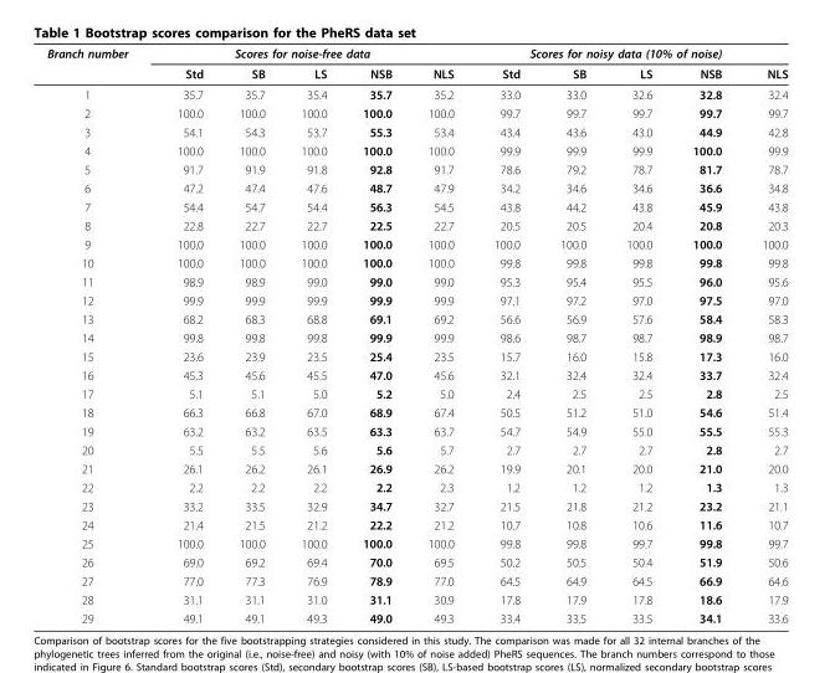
<table><thead><tr><td rowspan="2">Branch number</td><td colspan="5">Scores for noise-free data</td><td colspan="5">Scores for noisy data (10% of noise)</td></tr><tr><td>Std</td><td>SB</td><td>LS</td><td>NSB</td><td>NLS</td><td>Std</td><td>SB</td><td>LS</td><td>NSB</td><td>NLS</td></tr></thead><tbody><tr><td>1</td><td>35.7</td><td>35.7</td><td>35.4</td><td>35.7</td><td>35.2</td><td>33.0</td><td>33.0</td><td>32.6</td><td>32.8</td><td>32.4</td></tr><tr><td>2</td><td>100.0</td><td>100.0</td><td>100.0</td><td>100.0</td><td>100.0</td><td>99.7</td><td>99.7</td><td>99.7</td><td>99.7</td><td>99.7</td></tr><tr><td>3</td><td>54.1</td><td>54.3</td><td>53.7</td><td>55.3</td><td>53.4</td><td>43.4</td><td>43.6</td><td>43.0</td><td>44.9</td><td>42.8</td></tr><tr><td>4</td><td>100.0</td><td>100.0</td><td>100.0</td><td>100.0</td><td>100.0</td><td>99.9</td><td>99.9</td><td>99.9</td><td>100.0</td><td>99.9</td></tr><tr><td>5</td><td>91.7</td><td>91.9</td><td>91.8</td><td>92.8</td><td>91.7</td><td>78.6</td><td>79.2</td><td>78.7</td><td>81.7</td><td>78.7</td></tr><tr><td>6</td><td>47.2</td><td>47.4</td><td>47.6</td><td>48.7</td><td>47.9</td><td>34.2</td><td>34.6</td><td>34.6</td><td>36.6</td><td>34.8</td></tr><tr><td>7</td><td>54.4</td><td>54.7</td><td>54.4</td><td>56.3</td><td>54.5</td><td>43.8</td><td>44.2</td><td>43.8</td><td>45.9</td><td>43.8</td></tr><tr><td>8</td><td>22.8</td><td>22.7</td><td>22.7</td><td>22.5</td><td>22.7</td><td>20.5</td><td>20.5</td><td>20.4</td><td>20.8</td><td>20.3</td></tr><tr><td>9</td><td>100.0</td><td>100.0</td><td>100.0</td><td>100.0</td><td>100.0</td><td>100.0</td><td>100.0</td><td>100.0</td><td>100.0</td><td>100.0</td></tr><tr><td>10</td><td>100.0</td><td>100.0</td><td>100.0</td><td>100.0</td><td>100.0</td><td>99.8</td><td>99.8</td><td>99.8</td><td>99.8</td><td>99.8</td></tr><tr><td>11</td><td>98.9</td><td>98.9</td><td>99.0</td><td>99.0</td><td>99.0</td><td>95.3</td><td>95.4</td><td>95.5</td><td>96.0</td><td>95.6</td></tr><tr><td>12</td><td>99.9</td><td>99.9</td><td>99.9</td><td>99.9</td><td>99.9</td><td>97.1</td><td>97.2</td><td>97.0</td><td>97.5</td><td>97.0</td></tr><tr><td>13</td><td>68.2</td><td>68.3</td><td>68.8</td><td>69.1</td><td>69.2</td><td>56.6</td><td>56.9</td><td>57.6</td><td>58.4</td><td>58.3</td></tr><tr><td>14</td><td>99.8</td><td>99.8</td><td>99.8</td><td>99.9</td><td>99.9</td><td>98.6</td><td>98.7</td><td>98.7</td><td>98.9</td><td>98.7</td></tr><tr><td>15</td><td>23.6</td><td>23.9</td><td>23.5</td><td>25.4</td><td>23.5</td><td>15.7</td><td>16.0</td><td>15.8</td><td>17.3</td><td>16.0</td></tr><tr><td>16</td><td>45.3</td><td>45.6</td><td>45.5</td><td>47.0</td><td>45.6</td><td>32.1</td><td>32.4</td><td>32.4</td><td>33.7</td><td>32.4</td></tr><tr><td>17</td><td>5.1</td><td>5.1</td><td>5.0</td><td>5.2</td><td>5.0</td><td>2.4</td><td>2.5</td><td>2.5</td><td>2.8</td><td>2.5</td></tr><tr><td>18</td><td>66.3</td><td>66.8</td><td>67.0</td><td>68.9</td><td>67.4</td><td>50.5</td><td>51.2</td><td>51.0</td><td>54.6</td><td>51.4</td></tr><tr><td>19</td><td>63.2</td><td>63.2</td><td>63.5</td><td>63.3</td><td>63.7</td><td>54.7</td><td>54.9</td><td>55.0</td><td>55.5</td><td>55.3</td></tr><tr><td>20</td><td>5.5</td><td>5.5</td><td>5.6</td><td>5.6</td><td>5.7</td><td>2.7</td><td>2.7</td><td>2.7</td><td>2.8</td><td>2.7</td></tr><tr><td>21</td><td>26.1</td><td>26.2</td><td>26.1</td><td>26.9</td><td>26.2</td><td>19.9</td><td>20.1</td><td>20.0</td><td>21.0</td><td>20.0</td></tr><tr><td>22</td><td>2.2</td><td>2.2</td><td>2.2</td><td>2.2</td><td>2.3</td><td>1.2</td><td>1.2</td><td>1.2</td><td>1.3</td><td>1.3</td></tr><tr><td>23</td><td>33.2</td><td>33.5</td><td>32.9</td><td>34.7</td><td>32.7</td><td>21.5</td><td>21.8</td><td>21.2</td><td>23.2</td><td>21.1</td></tr><tr><td>24</td><td>21.4</td><td>21.5</td><td>21.2</td><td>22.2</td><td>21.2</td><td>10.7</td><td>10.8</td><td>10.6</td><td>11.6</td><td>10.7</td></tr><tr><td>25</td><td>100.0</td><td>100.0</td><td>100.0</td><td>100.0</td><td>100.0</td><td>99.8</td><td>99.8</td><td>99.7</td><td>99.8</td><td>99.7</td></tr><tr><td>26</td><td>69.0</td><td>69.2</td><td>69.4</td><td>70.0</td><td>69.5</td><td>50.2</td><td>50.5</td><td>50.4</td><td>51.9</td><td>50.6</td></tr><tr><td>27</td><td>77.0</td><td>77.3</td><td>76.9</td><td>78.9</td><td>77.0</td><td>64.5</td><td>64.9</td><td>64.5</td><td>66.9</td><td>64.6</td></tr><tr><td>28</td><td>31.1</td><td>31.1</td><td>31.0</td><td>31.1</td><td>30.9</td><td>17.8</td><td>17.9</td><td>17.8</td><td>18.6</td><td>17.9</td></tr><tr><td>29</td><td>49.1</td><td>49.1</td><td>49.3</td><td>49.0</td><td>49.3</td><td>33.4</td><td>33.5</td><td>33.5</td><td>34.1</td><td>33.6</td></tr></tbody></table>